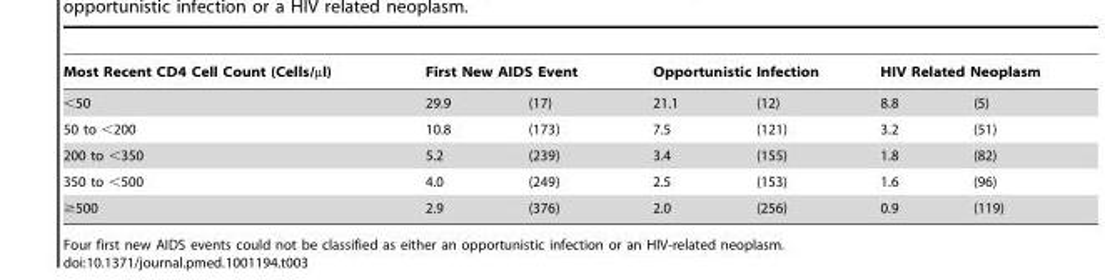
<table><thead><tr><td rowspan="2">Most Recent CD4 Cell Count (Cells/µl) &lt;50</td><td colspan="2">First New AIDS Event</td><td colspan="2">Opportunistic Infection</td><td colspan="2">HIV Related Neoplasm</td></tr><tr><td>29.9</td><td>(17)</td><td>21.1</td><td>(12)</td><td>8.8</td><td>(5)</td></tr></thead><tbody><tr><td>50 to &lt;200</td><td>10.8</td><td>(173)</td><td>7.5</td><td>(121)</td><td>3.2</td><td>(51)</td></tr><tr><td>200 to &lt;350</td><td>5.2</td><td>(239)</td><td>3.4</td><td>(155)</td><td>1.8</td><td>(82)</td></tr><tr><td>350 to &lt;500</td><td>4.0</td><td>(249)</td><td>2.5</td><td>(153)</td><td>1.6</td><td>(96)</td></tr><tr><td>≥500</td><td>2.9</td><td>(376)</td><td>2.0</td><td>(256)</td><td>0.9</td><td>(119)</td></tr></tbody></table>